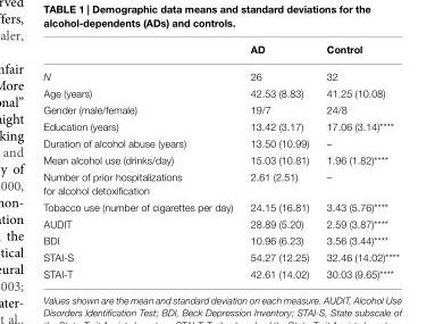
<table><thead><tr><td></td><td>AD</td><td>Control</td></tr></thead><tbody><tr><td>N</td><td>26</td><td>32</td></tr><tr><td>Age (years)</td><td>42.53 (8.83)</td><td>41.25 (10.08)</td></tr><tr><td>Gender (male/female)</td><td>19/7</td><td>24/8</td></tr><tr><td>Education (years)</td><td>13.42 (3.17)</td><td>17.06 (3.14)****</td></tr><tr><td>Duration of alcohol abuse (years)</td><td>13.50 (10.99)</td><td>–</td></tr><tr><td>Mean alcohol use (drinks/day)</td><td>15.03 (10.81)</td><td>1.96 (1.82)****</td></tr><tr><td>Number of prior hospitalizations for alcohol detoxification</td><td>2.61 (2.51)</td><td>–</td></tr><tr><td>Tobacco use (number of cigarettes per day)</td><td>24.15 (16.81)</td><td>3.43 (5.76)****</td></tr><tr><td>AUDIT</td><td>28.89 (5.20)</td><td>2.59 (3.87)****</td></tr><tr><td>BDI</td><td>10.96 (6.23)</td><td>3.56 (3.44)****</td></tr><tr><td>STAI-S</td><td>54.27 (12.25)</td><td>32.46 (14.02)****</td></tr><tr><td>STAI-T</td><td>42.61 (14.02)</td><td>30.03 (9.65)****</td></tr></tbody></table>